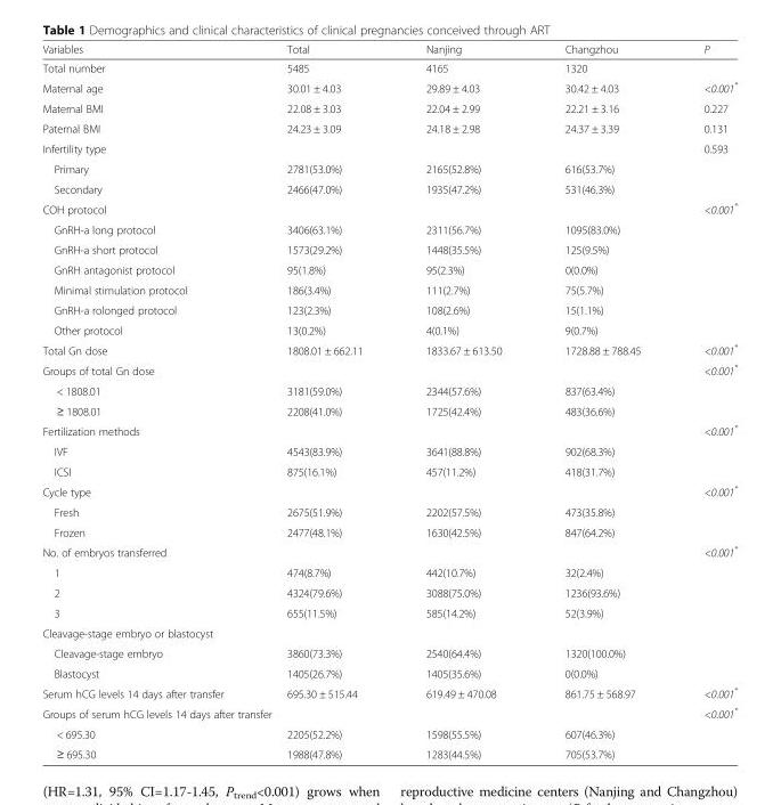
<table><thead><tr><td>Variables</td><td>Total</td><td>Nanjing</td><td>Changzhou</td><td>P</td></tr></thead><tbody><tr><td>Total number</td><td>5485</td><td>4165</td><td>1320</td><td></td></tr><tr><td>Maternal age</td><td>30.01 ± 4.03</td><td>29.89 ± 4.03</td><td>30.42 ± 4.03</td><td>&lt;0.001*</td></tr><tr><td>Maternal BMI</td><td>22.08 ± 3.03</td><td>22.04 ± 2.99</td><td>22.21 ± 3.16</td><td>0.227</td></tr><tr><td>Paternal BMI</td><td>24.23 ± 3.09</td><td>24.18 ± 2.98</td><td>24.37 ± 3.39</td><td>0.131</td></tr><tr><td colspan="4">Infertility type</td><td>0.593</td></tr><tr><td>Primary</td><td>2781(53.0%)</td><td>2165(52.8%)</td><td>616(53.7%)</td><td></td></tr><tr><td>Secondary</td><td>2466(47.0%)</td><td>1935(47.2%)</td><td>531(46.3%)</td><td></td></tr><tr><td colspan="4">COH protocol</td><td>&lt;0.001*</td></tr><tr><td>GnRH-a long protocol</td><td>3406(63.1%)</td><td>2311(56.7%)</td><td>1095(83.0%)</td><td></td></tr><tr><td>GnRH-a short protocol</td><td>1573(29.2%)</td><td>1448(35.5%)</td><td>125(9.5%)</td><td></td></tr><tr><td>GnRH antagonist protocol</td><td>95(1.8%)</td><td>95(2.3%)</td><td>0(0.0%)</td><td></td></tr><tr><td>Minimal stimulation protocol</td><td>186(3.4%)</td><td>111(2.7%)</td><td>75(5.7%)</td><td></td></tr><tr><td>GnRH-a rolonged protocol</td><td>123(2.3%)</td><td>108(2.6%)</td><td>15(1.1%)</td><td></td></tr><tr><td>Other protocol</td><td>13(0.2%)</td><td>4(0.1%)</td><td>9(0.7%)</td><td></td></tr><tr><td>Total Gn dose</td><td>1808.01 ± 662.11</td><td>1833.67 ± 613.50</td><td>1728.88 ± 788.45</td><td>&lt;0.001*</td></tr><tr><td colspan="4">Groups of total Gn dose</td><td>&lt;0.001*</td></tr><tr><td>&lt; 1808.01</td><td>3181(59.0%)</td><td>2344(57.6%)</td><td>837(63.4%)</td><td></td></tr><tr><td>≥ 1808.01</td><td>2208(41.0%)</td><td>1725(42.4%)</td><td>483(36.6%)</td><td></td></tr><tr><td colspan="4">Fertilization methods</td><td>&lt;0.001*</td></tr><tr><td>IVF</td><td>4543(83.9%)</td><td>3641(88.8%)</td><td>902(68.3%)</td><td></td></tr><tr><td>ICSI</td><td>875(16.1%)</td><td>457(11.2%)</td><td>418(31.7%)</td><td></td></tr><tr><td colspan="4">Cycle type</td><td>&lt;0.001*</td></tr><tr><td>Fresh</td><td>2675(51.9%)</td><td>2202(57.5%)</td><td>473(35.8%)</td><td></td></tr><tr><td>Frozen</td><td>2477(48.1%)</td><td>1630(42.5%)</td><td>847(64.2%)</td><td></td></tr><tr><td colspan="4">No. of embryos transferred</td><td>&lt;0.001*</td></tr><tr><td>1</td><td>474(8.7%)</td><td>442(10.7%)</td><td>32(2.4%)</td><td></td></tr><tr><td>2</td><td>4324(79.6%)</td><td>3088(75.0%)</td><td>1236(93.6%)</td><td></td></tr><tr><td>3</td><td>655(11.5%)</td><td>585(14.2%)</td><td>52(3.9%)</td><td></td></tr><tr><td colspan="5">Cleavage-stage embryo or blastocyst</td></tr><tr><td>Cleavage-stage embryo</td><td>3860(73.3%)</td><td>2540(64.4%)</td><td>1320(100.0%)</td><td></td></tr><tr><td>Blastocyst</td><td>1405(26.7%)</td><td>1405(35.6%)</td><td>0(0.0%)</td><td></td></tr><tr><td>Serum hCG levels 14 days after transfer</td><td>695.30 ± 515.44</td><td>619.49 ± 470.08</td><td>861.75 ± 568.97</td><td>&lt;0.001*</td></tr><tr><td colspan="4">Groups of serum hCG levels 14 days after transfer</td><td>&lt;0.001*</td></tr><tr><td>&lt; 695.30</td><td>2205(52.2%)</td><td>1598(55.5%)</td><td>607(46.3%)</td><td></td></tr><tr><td>≥ 695.30</td><td>1988(47.8%)</td><td>1283(44.5%)</td><td>705(53.7%)</td><td></td></tr></tbody></table>